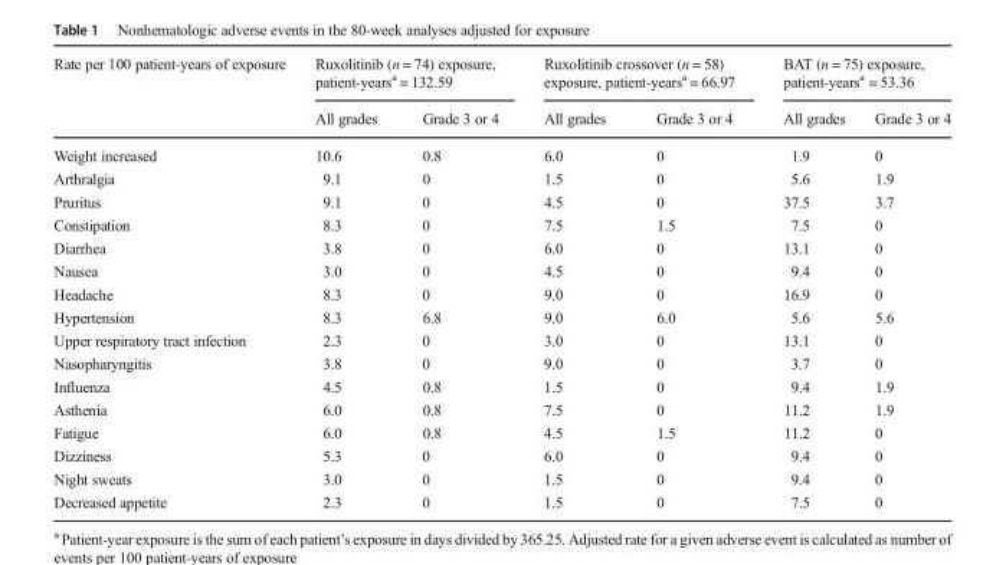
<table><thead><tr><td rowspan="2">Rate per 100 patient-years of exposure</td><td colspan="2">Ruxolitinib (n = 74) exposure, patient-years<sup>a</sup> = 132.59</td><td colspan="2">Ruxolitinib crossover (n = 58) exposure, patient-years<sup>a</sup> = 66.97</td><td colspan="2">BAT (n = 75) exposure, patient-years<sup>a</sup> = 53.36</td></tr><tr><td>All grades</td><td>Grade 3 or 4</td><td>All grades</td><td>Grade 3 or 4</td><td>All grades</td><td>Grade 3 or 4</td></tr></thead><tbody><tr><td>Weight increased</td><td>10.6</td><td>0.8</td><td>6.0</td><td>0</td><td>1.9</td><td>0</td></tr><tr><td>Arthralgia</td><td>9.1</td><td>0</td><td>1.5</td><td>0</td><td>5.6</td><td>1.9</td></tr><tr><td>Pruritus</td><td>9.1</td><td>0</td><td>4.5</td><td>0</td><td>37.5</td><td>3.7</td></tr><tr><td>Constipation</td><td>8.3</td><td>0</td><td>7.5</td><td>1.5</td><td>7.5</td><td>0</td></tr><tr><td>Diarrhea</td><td>3.8</td><td>0</td><td>6.0</td><td>0</td><td>13.1</td><td>0</td></tr><tr><td>Nausea</td><td>3.0</td><td>0</td><td>4.5</td><td>0</td><td>9.4</td><td>0</td></tr><tr><td>Headache</td><td>8.3</td><td>0</td><td>9.0</td><td>0</td><td>16.9</td><td>0</td></tr><tr><td>Hypertension</td><td>8.3</td><td>6.8</td><td>9.0</td><td>6.0</td><td>5.6</td><td>5.6</td></tr><tr><td>Upper respiratory tract infection</td><td>2.3</td><td>0</td><td>3.0</td><td>0</td><td>13.1</td><td>0</td></tr><tr><td>Nasopharyngitis</td><td>3.8</td><td>0</td><td>9.0</td><td>0</td><td>3.7</td><td>0</td></tr><tr><td>Influenza</td><td>4.5</td><td>0.8</td><td>1.5</td><td>0</td><td>9.4</td><td>1.9</td></tr><tr><td>Asthenia</td><td>6.0</td><td>0.8</td><td>7.5</td><td>0</td><td>11.2</td><td>1.9</td></tr><tr><td>Fatigue</td><td>6.0</td><td>0.8</td><td>4.5</td><td>1.5</td><td>11.2</td><td>0</td></tr><tr><td>Dizziness</td><td>5.3</td><td>0</td><td>6.0</td><td>0</td><td>9.4</td><td>0</td></tr><tr><td>Night sweats</td><td>3.0</td><td>0</td><td>1.5</td><td>0</td><td>9.4</td><td>0</td></tr><tr><td>Decreased appetite</td><td>2.3</td><td>0</td><td>1.5</td><td>0</td><td>7.5</td><td>0</td></tr></tbody></table>